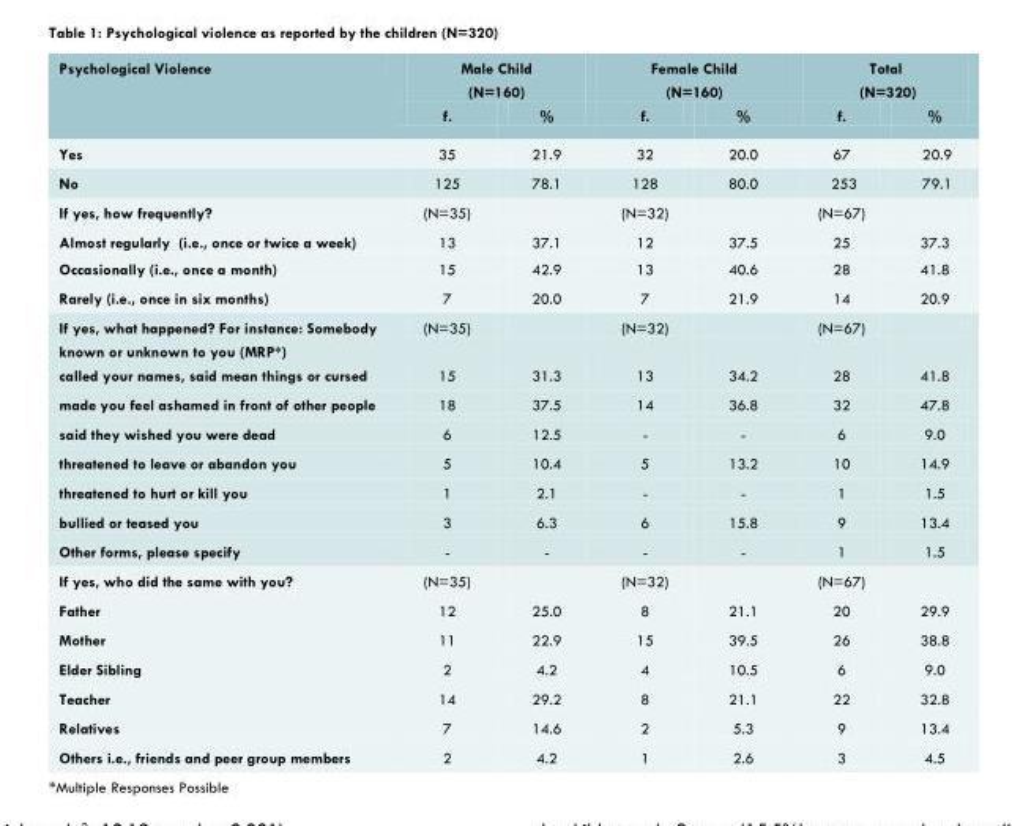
<table><thead><tr><td rowspan="2">Psychological Violence</td><td colspan="2">Male Child (N=160)</td><td colspan="2">Female Child (N=160)</td><td colspan="2">Total (N=320)</td></tr><tr><td>f.</td><td>%</td><td>f.</td><td>%</td><td>f.</td><td>%</td></tr></thead><tbody><tr><td>Yes</td><td>35</td><td>21.9</td><td>32</td><td>20.0</td><td>67</td><td>20.9</td></tr><tr><td>No</td><td>125</td><td>78.1</td><td>128</td><td>80.0</td><td>253</td><td>79.1</td></tr><tr><td>If yes, how frequently?</td><td>(N=35)</td><td></td><td>(N=32)</td><td></td><td>(N=67)</td><td></td></tr><tr><td>Almost regularly (i.e., once or twice a week)</td><td>13</td><td>37.1</td><td>12</td><td>37.5</td><td>25</td><td>37.3</td></tr><tr><td>Occasionally (i.e., once a month)</td><td>15</td><td>42.9</td><td>13</td><td>40.6</td><td>28</td><td>41.8</td></tr><tr><td>Rarely (i.e., once in six months)</td><td>7</td><td>20.0</td><td>7</td><td>21.9</td><td>14</td><td>20.9</td></tr><tr><td>If yes, what happened? For instance: Somebody known or unknown to you (MRP*)</td><td>(N=35)</td><td></td><td>(N=32)</td><td></td><td>(N=67)</td><td></td></tr><tr><td>called your names, said mean things or cursed</td><td>15</td><td>31.3</td><td>13</td><td>34.2</td><td>28</td><td>41.8</td></tr><tr><td>made you feel ashamed in front of other people</td><td>18</td><td>37.5</td><td>14</td><td>36.8</td><td>32</td><td>47.8</td></tr><tr><td>said they wished you were dead</td><td>6</td><td>12.5</td><td>-</td><td>-</td><td>6</td><td>9.0</td></tr><tr><td>threatened to leave or abandon you</td><td>5</td><td>10.4</td><td>5</td><td>13.2</td><td>10</td><td>14.9</td></tr><tr><td>threatened to hurt or kill you</td><td>1</td><td>2.1</td><td>-</td><td>-</td><td>1</td><td>1.5</td></tr><tr><td>bullied or teased you</td><td>3</td><td>6.3</td><td>6</td><td>15.8</td><td>9</td><td>13.4</td></tr><tr><td>Other forms, please specify</td><td>-</td><td>-</td><td>-</td><td>-</td><td>1</td><td>1.5</td></tr><tr><td>If yes, who did the same with you?</td><td>(N=35)</td><td></td><td>(N=32)</td><td></td><td>(N=67)</td><td></td></tr><tr><td>Father</td><td>12</td><td>25.0</td><td>8</td><td>21.1</td><td>20</td><td>29.9</td></tr><tr><td>Mother</td><td>11</td><td>22.9</td><td>15</td><td>39.5</td><td>26</td><td>38.8</td></tr><tr><td>Elder Sibling</td><td>2</td><td>4.2</td><td>4</td><td>10.5</td><td>6</td><td>9.0</td></tr><tr><td>Teacher</td><td>14</td><td>29.2</td><td>8</td><td>21.1</td><td>22</td><td>32.8</td></tr><tr><td>Relatives</td><td>7</td><td>14.6</td><td>2</td><td>5.3</td><td>9</td><td>13.4</td></tr><tr><td>Others i.e., friends and peer group members</td><td>2</td><td>4.2</td><td>1</td><td>2.6</td><td>3</td><td>4.5</td></tr></tbody></table>